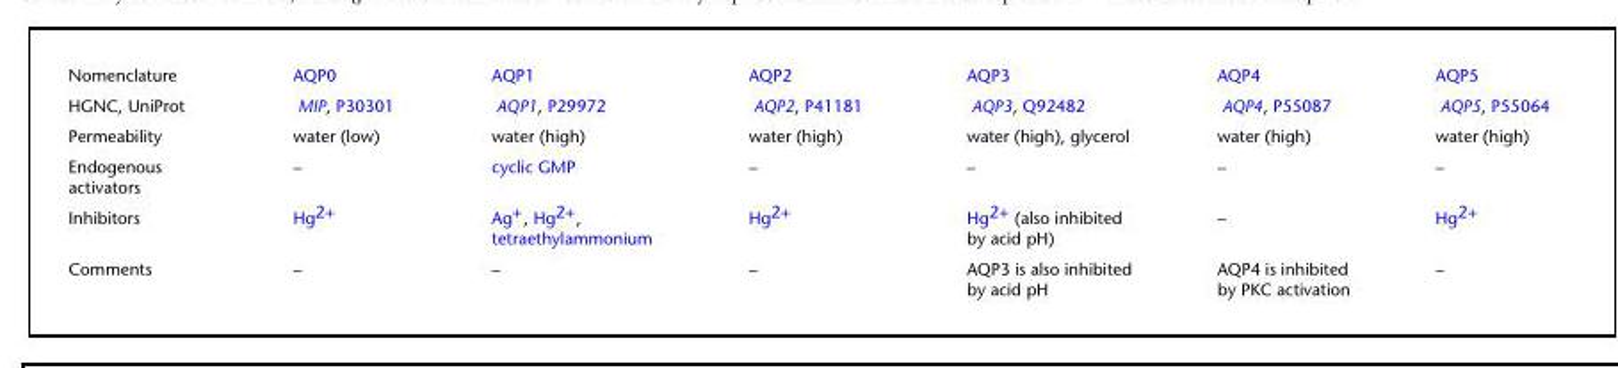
<table><tbody><tr><td>Nomenclature</td><td>AQP0</td><td>AQP1</td><td>AQP2</td><td>AQP3</td><td>AQP4</td><td>AQP5</td></tr><tr><td>HGNC, UniProt</td><td>MIP, P30301</td><td>AQP1, P29972</td><td>AQP2, P41181</td><td>AQP3, Q92482</td><td>AQP4, P55087</td><td>AQP5, P55064</td></tr><tr><td>Permeability</td><td>water (low)</td><td>water (high)</td><td>water (high)</td><td>water (high), glycerol</td><td>water (high)</td><td>water (high)</td></tr><tr><td>Endogenous activators</td><td>–</td><td>cyclic GMP</td><td>–</td><td>–</td><td>–</td><td>–</td></tr><tr><td>Inhibitors</td><td>Hg<sup>2+</sup></td><td>Ag<sup>+</sup>, Hg<sup>2+</sup>, tetraethylammonium</td><td>Hg<sup>2+</sup></td><td>Hg<sup>2+</sup> (also inhibited by acid pH)</td><td>–</td><td>Hg<sup>2+</sup></td></tr><tr><td>Comments</td><td>–</td><td>–</td><td>–</td><td>AQP3 is also inhibited by acid pH</td><td>AQP4 is inhibited by PKC activation</td><td>–</td></tr></tbody></table>